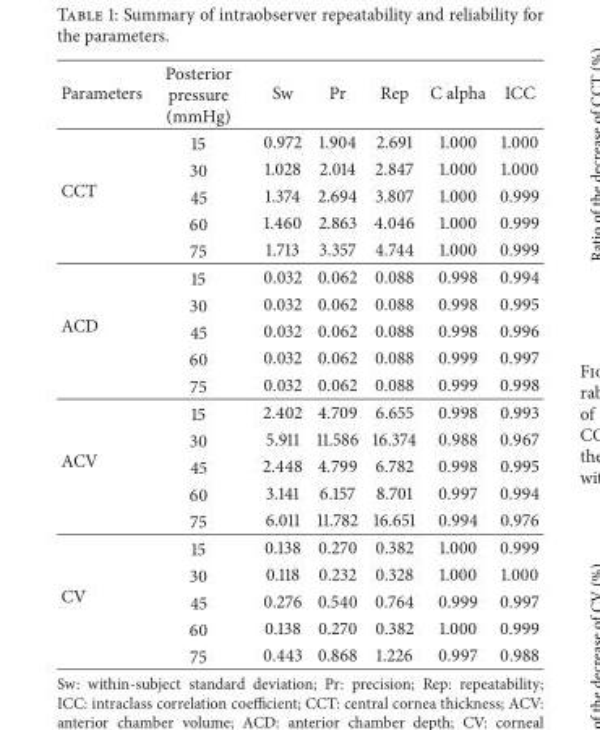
<table><thead><tr><td>Parameters</td><td>Posterior pressure (mmHg)</td><td>Sw</td><td>Pr</td><td>Rep</td><td>C alpha</td><td>ICC</td></tr></thead><tbody><tr><td rowspan="5">CCT</td><td>15</td><td>0.972</td><td>1.904</td><td>2.691</td><td>1.000</td><td>1.000</td></tr><tr><td>30</td><td>1.028</td><td>2.014</td><td>2.847</td><td>1.000</td><td>1.000</td></tr><tr><td>45</td><td>1.374</td><td>2.694</td><td>3.807</td><td>1.000</td><td>0.999</td></tr><tr><td>60</td><td>1.460</td><td>2.863</td><td>4.046</td><td>1.000</td><td>0.999</td></tr><tr><td>75</td><td>1.713</td><td>3.357</td><td>4.744</td><td>1.000</td><td>0.999</td></tr><tr><td rowspan="5">ACD</td><td>15</td><td>0.032</td><td>0.062</td><td>0.088</td><td>0.998</td><td>0.994</td></tr><tr><td>30</td><td>0.032</td><td>0.062</td><td>0.088</td><td>0.998</td><td>0.995</td></tr><tr><td>45</td><td>0.032</td><td>0.062</td><td>0.088</td><td>0.998</td><td>0.996</td></tr><tr><td>60</td><td>0.032</td><td>0.062</td><td>0.088</td><td>0.999</td><td>0.997</td></tr><tr><td>75</td><td>0.032</td><td>0.062</td><td>0.088</td><td>0.999</td><td>0.998</td></tr><tr><td rowspan="5">ACV</td><td>15</td><td>2.402</td><td>4.709</td><td>6.655</td><td>0.998</td><td>0.993</td></tr><tr><td>30</td><td>5.911</td><td>11.586</td><td>16.374</td><td>0.988</td><td>0.967</td></tr><tr><td>45</td><td>2.448</td><td>4.799</td><td>6.782</td><td>0.998</td><td>0.995</td></tr><tr><td>60</td><td>3.141</td><td>6.157</td><td>8.701</td><td>0.997</td><td>0.994</td></tr><tr><td>75</td><td>6.011</td><td>11.782</td><td>16.651</td><td>0.994</td><td>0.976</td></tr><tr><td rowspan="5">CV</td><td>15</td><td>0.138</td><td>0.270</td><td>0.382</td><td>1.000</td><td>0.999</td></tr><tr><td>30</td><td>0.118</td><td>0.232</td><td>0.328</td><td>1.000</td><td>1.000</td></tr><tr><td>45</td><td>0.276</td><td>0.540</td><td>0.764</td><td>0.999</td><td>0.997</td></tr><tr><td>60</td><td>0.138</td><td>0.270</td><td>0.382</td><td>1.000</td><td>0.999</td></tr><tr><td>75</td><td>0.443</td><td>0.868</td><td>1.226</td><td>0.997</td><td>0.988</td></tr></tbody></table>